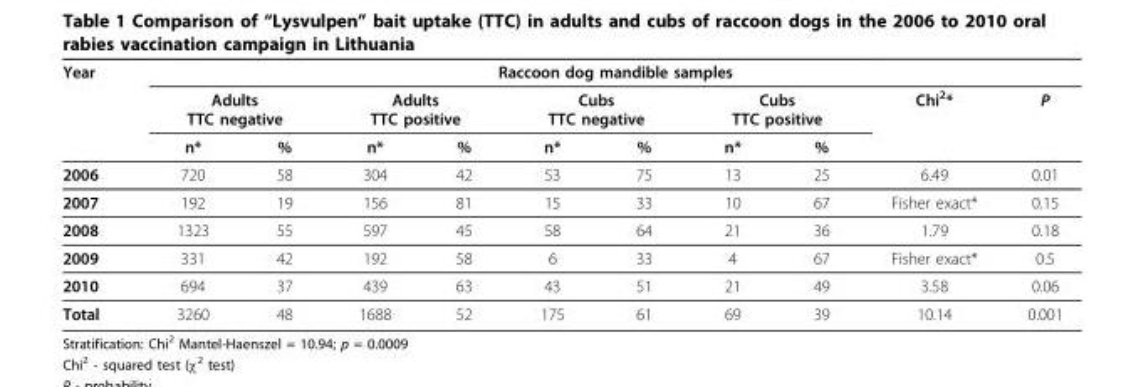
<table><thead><tr><td rowspan="3">Year</td><td colspan="10">Raccoon dog mandible samples</td></tr><tr><td colspan="2">Adults TTC negative</td><td colspan="2">Adults TTC positive</td><td colspan="2">Cubs TTC negative</td><td colspan="2">Cubs TTC positive</td><td rowspan="2">Chi<sup>2</sup>*</td><td rowspan="2">P</td></tr><tr><td>n*</td><td>%</td><td>n*</td><td>%</td><td>n*</td><td>%</td><td>n*</td><td>%</td></tr></thead><tbody><tr><td>2006</td><td>720</td><td>58</td><td>304</td><td>42</td><td>53</td><td>75</td><td>13</td><td>25</td><td>6.49</td><td>0.01</td></tr><tr><td>2007</td><td>192</td><td>19</td><td>156</td><td>81</td><td>15</td><td>33</td><td>10</td><td>67</td><td>Fisher exact*</td><td>0.15</td></tr><tr><td>2008</td><td>1323</td><td>55</td><td>597</td><td>45</td><td>58</td><td>64</td><td>21</td><td>36</td><td>1.79</td><td>0.18</td></tr><tr><td>2009</td><td>331</td><td>42</td><td>192</td><td>58</td><td>6</td><td>33</td><td>4</td><td>67</td><td>Fisher exact*</td><td>0.5</td></tr><tr><td>2010</td><td>694</td><td>37</td><td>439</td><td>63</td><td>43</td><td>51</td><td>21</td><td>49</td><td>3.58</td><td>0.06</td></tr><tr><td>Total</td><td>3260</td><td>48</td><td>1688</td><td>52</td><td>175</td><td>61</td><td>69</td><td>39</td><td>10.14</td><td>0.001</td></tr></tbody></table>